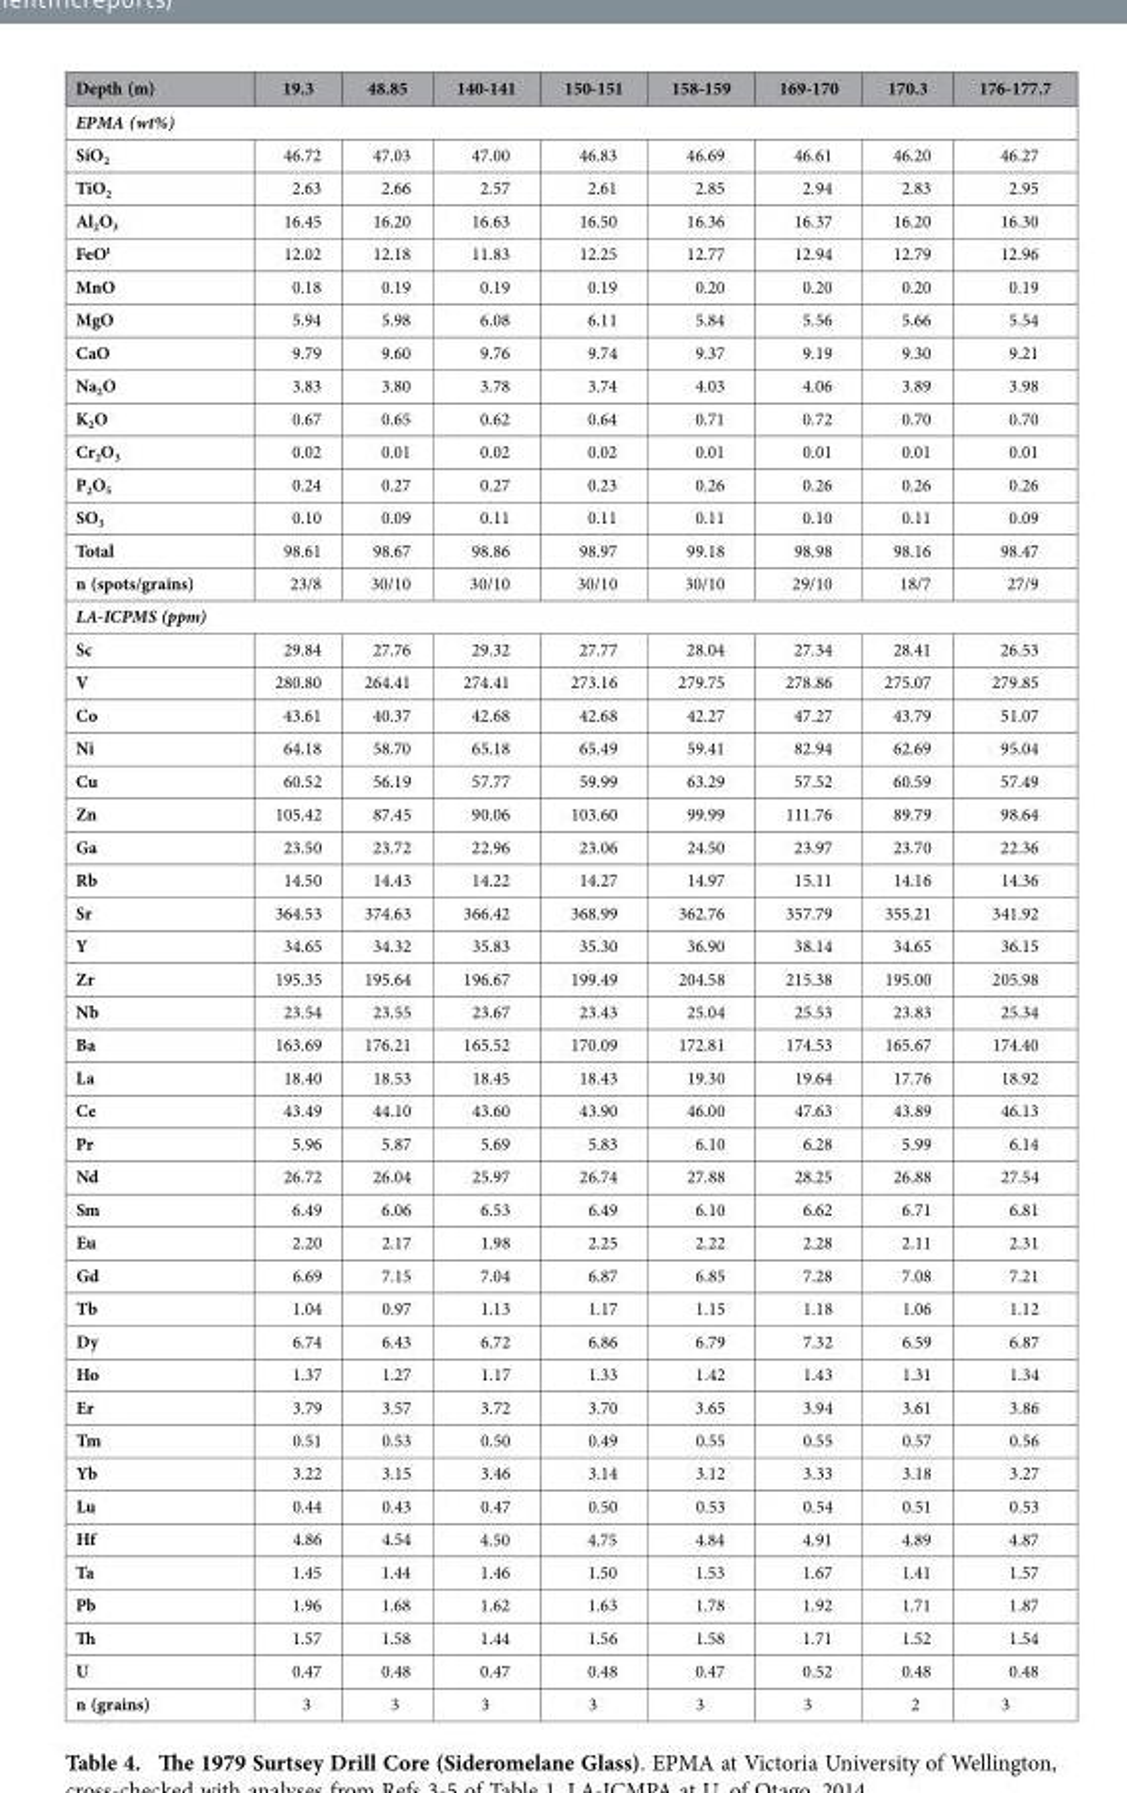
<table><thead><tr><td>Depth (m)</td><td>19.3</td><td>48.85</td><td>140-141</td><td>150-151</td><td>158-159</td><td>169-170</td><td>170.3</td><td>176-177.7</td></tr></thead><tbody><tr><td colspan="9">EPMA (wt%)</td></tr><tr><td>SiO<sub>2</sub></td><td>46.72</td><td>47.03</td><td>47.00</td><td>46.83</td><td>46.69</td><td>46.61</td><td>46.20</td><td>46.27</td></tr><tr><td>TiO<sub>2</sub></td><td>2.63</td><td>2.66</td><td>2.57</td><td>2.61</td><td>2.85</td><td>2.94</td><td>2.83</td><td>2.95</td></tr><tr><td>Al<sub>2</sub>O<sub>3</sub></td><td>16.45</td><td>16.20</td><td>16.63</td><td>16.50</td><td>16.36</td><td>16.37</td><td>16.20</td><td>16.30</td></tr><tr><td>FeO<sup>t</sup></td><td>12.02</td><td>12.18</td><td>11.83</td><td>12.25</td><td>12.77</td><td>12.94</td><td>12.79</td><td>12.96</td></tr><tr><td>MnO</td><td>0.18</td><td>0.19</td><td>0.19</td><td>0.19</td><td>0.20</td><td>0.20</td><td>0.20</td><td>0.19</td></tr><tr><td>MgO</td><td>5.94</td><td>5.98</td><td>6.08</td><td>6.11</td><td>5.84</td><td>5.56</td><td>5.66</td><td>5.54</td></tr><tr><td>CaO</td><td>9.79</td><td>9.60</td><td>9.76</td><td>9.74</td><td>9.37</td><td>9.19</td><td>9.30</td><td>9.21</td></tr><tr><td>Na<sub>2</sub>O</td><td>3.83</td><td>3.80</td><td>3.78</td><td>3.74</td><td>4.03</td><td>4.06</td><td>3.89</td><td>3.98</td></tr><tr><td>K<sub>2</sub>O</td><td>0.67</td><td>0.65</td><td>0.62</td><td>0.64</td><td>0.71</td><td>0.72</td><td>0.70</td><td>0.70</td></tr><tr><td>Cr<sub>2</sub>O<sub>3</sub></td><td>0.02</td><td>0.01</td><td>0.02</td><td>0.02</td><td>0.01</td><td>0.01</td><td>0.01</td><td>0.01</td></tr><tr><td>P<sub>2</sub>O<sub>5</sub></td><td>0.24</td><td>0.27</td><td>0.27</td><td>0.23</td><td>0.26</td><td>0.26</td><td>0.26</td><td>0.26</td></tr><tr><td>SO<sub>3</sub></td><td>0.10</td><td>0.09</td><td>0.11</td><td>0.11</td><td>0.11</td><td>0.10</td><td>0.11</td><td>0.09</td></tr><tr><td>Total</td><td>98.61</td><td>98.67</td><td>98.86</td><td>98.97</td><td>99.18</td><td>98.98</td><td>98.16</td><td>98.47</td></tr><tr><td>n (spots/grains)</td><td>23/8</td><td>30/10</td><td>30/10</td><td>30/10</td><td>30/10</td><td>29/10</td><td>18/7</td><td>27/9</td></tr><tr><td colspan="9">LA-ICPMS (ppm)</td></tr><tr><td>Sc</td><td>29.84</td><td>27.76</td><td>29.32</td><td>27.77</td><td>28.04</td><td>27.34</td><td>28.41</td><td>26.53</td></tr><tr><td>V</td><td>280.80</td><td>264.41</td><td>274.41</td><td>273.16</td><td>279.75</td><td>278.86</td><td>275.07</td><td>279.85</td></tr><tr><td>Co</td><td>43.61</td><td>40.37</td><td>42.68</td><td>42.68</td><td>42.27</td><td>47.27</td><td>43.79</td><td>51.07</td></tr><tr><td>Ni</td><td>64.18</td><td>58.70</td><td>65.18</td><td>65.49</td><td>59.41</td><td>82.94</td><td>62.69</td><td>95.04</td></tr><tr><td>Cu</td><td>60.52</td><td>56.19</td><td>57.77</td><td>59.99</td><td>63.29</td><td>57.52</td><td>60.59</td><td>57.49</td></tr><tr><td>Zn</td><td>105.42</td><td>87.45</td><td>90.06</td><td>103.60</td><td>99.99</td><td>111.76</td><td>89.79</td><td>98.64</td></tr><tr><td>Ga</td><td>23.50</td><td>23.72</td><td>22.96</td><td>23.06</td><td>24.50</td><td>23.97</td><td>23.70</td><td>22.36</td></tr><tr><td>Rb</td><td>14.50</td><td>14.43</td><td>14.22</td><td>14.27</td><td>14.97</td><td>15.11</td><td>14.16</td><td>14.36</td></tr><tr><td>Sr</td><td>364.53</td><td>374.63</td><td>366.42</td><td>368.99</td><td>362.76</td><td>357.79</td><td>355.21</td><td>341.92</td></tr><tr><td>Y</td><td>34.65</td><td>34.32</td><td>35.83</td><td>35.30</td><td>36.90</td><td>38.14</td><td>34.65</td><td>36.15</td></tr><tr><td>Zr</td><td>195.35</td><td>195.64</td><td>196.67</td><td>199.49</td><td>204.58</td><td>215.38</td><td>195.00</td><td>205.98</td></tr><tr><td>Nb</td><td>23.54</td><td>23.55</td><td>23.67</td><td>23.43</td><td>25.04</td><td>25.53</td><td>23.83</td><td>25.34</td></tr><tr><td>Ba</td><td>163.69</td><td>176.21</td><td>165.52</td><td>170.09</td><td>172.81</td><td>174.53</td><td>165.67</td><td>174.40</td></tr><tr><td>La</td><td>18.40</td><td>18.53</td><td>18.45</td><td>18.43</td><td>19.30</td><td>19.64</td><td>17.76</td><td>18.92</td></tr><tr><td>Ce</td><td>43.49</td><td>44.10</td><td>43.60</td><td>43.90</td><td>46.00</td><td>47.63</td><td>43.89</td><td>46.13</td></tr><tr><td>Pr</td><td>5.96</td><td>5.87</td><td>5.69</td><td>5.83</td><td>6.10</td><td>6.28</td><td>5.99</td><td>6.14</td></tr><tr><td>Nd</td><td>26.72</td><td>26.04</td><td>25.97</td><td>26.74</td><td>27.88</td><td>28.25</td><td>26.88</td><td>27.54</td></tr><tr><td>Sm</td><td>6.49</td><td>6.06</td><td>6.53</td><td>6.49</td><td>6.10</td><td>6.62</td><td>6.71</td><td>6.81</td></tr><tr><td>Eu</td><td>2.20</td><td>2.17</td><td>1.98</td><td>2.25</td><td>2.22</td><td>2.28</td><td>2.11</td><td>2.31</td></tr><tr><td>Gd</td><td>6.69</td><td>7.15</td><td>7.04</td><td>6.87</td><td>6.85</td><td>7.28</td><td>7.08</td><td>7.21</td></tr><tr><td>Tb</td><td>1.04</td><td>0.97</td><td>1.13</td><td>1.17</td><td>1.15</td><td>1.18</td><td>1.06</td><td>1.12</td></tr><tr><td>Dy</td><td>6.74</td><td>6.43</td><td>6.72</td><td>6.86</td><td>6.79</td><td>7.32</td><td>6.59</td><td>6.87</td></tr><tr><td>Ho</td><td>1.37</td><td>1.27</td><td>1.17</td><td>1.33</td><td>1.42</td><td>1.43</td><td>1.31</td><td>1.34</td></tr><tr><td>Er</td><td>3.79</td><td>3.57</td><td>3.72</td><td>3.70</td><td>3.65</td><td>3.94</td><td>3.61</td><td>3.86</td></tr><tr><td>Tm</td><td>0.51</td><td>0.53</td><td>0.50</td><td>0.49</td><td>0.55</td><td>0.55</td><td>0.57</td><td>0.56</td></tr><tr><td>Yb</td><td>3.22</td><td>3.15</td><td>3.46</td><td>3.14</td><td>3.12</td><td>3.33</td><td>3.18</td><td>3.27</td></tr><tr><td>Lu</td><td>0.44</td><td>0.43</td><td>0.47</td><td>0.50</td><td>0.53</td><td>0.54</td><td>0.51</td><td>0.53</td></tr><tr><td>Hf</td><td>4.86</td><td>4.54</td><td>4.50</td><td>4.75</td><td>4.84</td><td>4.91</td><td>4.89</td><td>4.87</td></tr><tr><td>Ta</td><td>1.45</td><td>1.44</td><td>1.46</td><td>1.50</td><td>1.53</td><td>1.67</td><td>1.41</td><td>1.57</td></tr><tr><td>Pb</td><td>1.96</td><td>1.68</td><td>1.62</td><td>1.63</td><td>1.78</td><td>1.92</td><td>1.71</td><td>1.87</td></tr><tr><td>Th</td><td>1.57</td><td>1.58</td><td>1.44</td><td>1.56</td><td>1.58</td><td>1.71</td><td>1.52</td><td>1.54</td></tr><tr><td>U</td><td>0.47</td><td>0.48</td><td>0.47</td><td>0.48</td><td>0.47</td><td>0.52</td><td>0.48</td><td>0.48</td></tr><tr><td>n (grains)</td><td>3</td><td>3</td><td>3</td><td>3</td><td>3</td><td>3</td><td>2</td><td>3</td></tr></tbody></table>